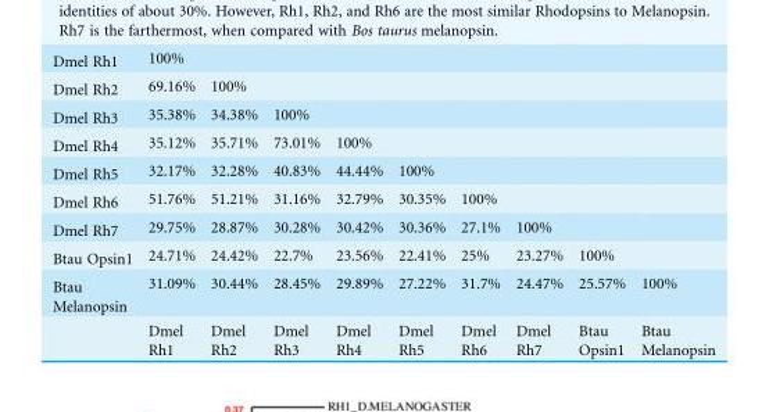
<table><tbody><tr><td>Dmel Rh1</td><td>100%</td><td></td><td></td><td></td><td></td><td></td><td></td><td></td><td></td></tr><tr><td>Dmel Rh2</td><td>69.16%</td><td>100%</td><td></td><td></td><td></td><td></td><td></td><td></td><td></td></tr><tr><td>Dmel Rh3</td><td>35.38%</td><td>34.38%</td><td>100%</td><td></td><td></td><td></td><td></td><td></td><td></td></tr><tr><td>Dmel Rh4</td><td>35.12%</td><td>35.71%</td><td>73.01%</td><td>100%</td><td></td><td></td><td></td><td></td><td></td></tr><tr><td>Dmel Rh5</td><td>32.17%</td><td>32.28%</td><td>40.83%</td><td>44.44%</td><td>100%</td><td></td><td></td><td></td><td></td></tr><tr><td>Dmel Rh6</td><td>51.76%</td><td>51.21%</td><td>31.16%</td><td>32.79%</td><td>30.35%</td><td>100%</td><td></td><td></td><td></td></tr><tr><td>Dmel Rh7</td><td>29.75%</td><td>28.87%</td><td>30.28%</td><td>30.42%</td><td>30.36%</td><td>27.1%</td><td>100%</td><td></td><td></td></tr><tr><td>Btau Opsin1</td><td>24.71%</td><td>24.42%</td><td>22.7%</td><td>23.56%</td><td>22.41%</td><td>25%</td><td>23.27%</td><td>100%</td><td></td></tr><tr><td rowspan="2">Btau Melanopsin</td><td>31.09%</td><td>30.44%</td><td>28.45%</td><td>29.89%</td><td>27.22%</td><td>31.7%</td><td>24.47%</td><td>25.57%</td><td>100%</td></tr><tr><td>Dmel Rh1</td><td>Dmel Rh2</td><td>Dmel Rh3</td><td>Dmel Rh4</td><td>Dmel Rh5</td><td>Dmel Rh6</td><td>Dmel Rh7</td><td>Btau Opsin1</td><td>Btau Melanopsin</td></tr></tbody></table>